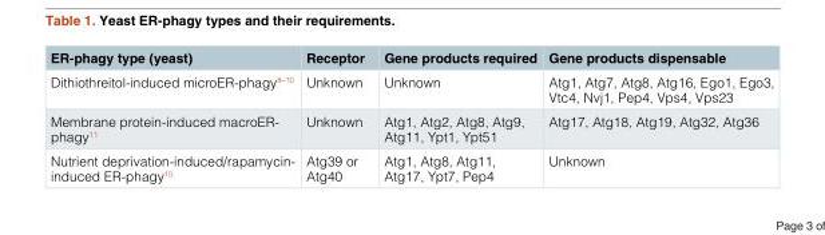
<table><thead><tr><td>ER-phagy type (yeast)</td><td>Receptor</td><td>Gene products required</td><td>Gene products dispensable</td></tr></thead><tbody><tr><td>Dithiothreitol-induced microER-phagy<sup>8–10</sup></td><td>Unknown</td><td>Unknown</td><td>Atg1, Atg7, Atg8, Atg16, Ego1, Ego3, Vtc4, Nvj1, Pep4, Vps4, Vps23</td></tr><tr><td>Membrane protein-induced macroER- phagy<sup>11</sup></td><td>Unknown</td><td>Atg1, Atg2, Atg8, Atg9, Atg11, Ypt1, Ypt51</td><td>Atg17, Atg18, Atg19, Atg32, Atg36</td></tr><tr><td>Nutrient deprivation-induced/rapamycin- induced ER-phagy<sup>15</sup></td><td>Atg39 or Atg40</td><td>Atg1, Atg8, Atg11, Atg17, Ypt7, Pep4</td><td>Unknown</td></tr></tbody></table>